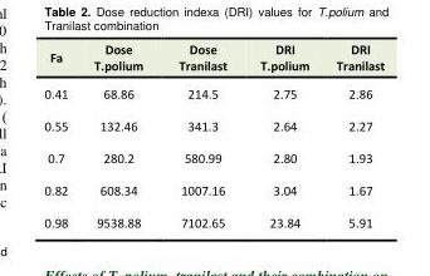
<table><tbody><tr><td>Fa</td><td>Dose T.polium</td><td>Dose Tranilast</td><td>DRI T.polium</td><td>DRI Tranilast</td></tr><tr><td>0.41</td><td>68.86</td><td>214.5</td><td>2.75</td><td>2.86</td></tr><tr><td>0.55</td><td>132.46</td><td>341.3</td><td>2.64</td><td>2.27</td></tr><tr><td>0.7</td><td>280.2</td><td>580.99</td><td>2.80</td><td>1.93</td></tr><tr><td>0.82</td><td>608.34</td><td>1007.16</td><td>3.04</td><td>1.67</td></tr><tr><td>0.98</td><td>9538.88</td><td>7102.65</td><td>23.84</td><td>5.91</td></tr></tbody></table>